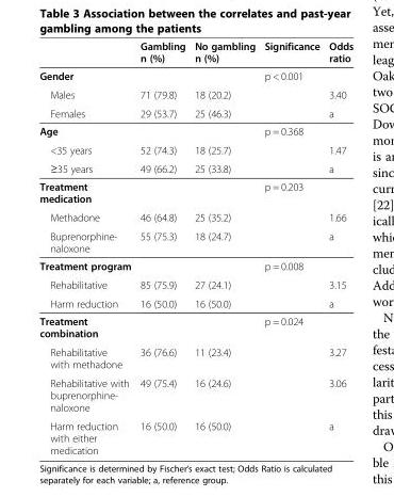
<table><thead><tr><td></td><td>Gambling n (%)</td><td>No gambling n (%)</td><td>Significance</td><td>Odds ratio</td></tr></thead><tbody><tr><td>Gender</td><td></td><td></td><td>p &lt; 0.001</td><td></td></tr><tr><td>Males</td><td>71 (79.8)</td><td>18 (20.2)</td><td></td><td>3.40</td></tr><tr><td>Females</td><td>29 (53.7)</td><td>25 (46.3)</td><td></td><td>a</td></tr><tr><td>Age</td><td></td><td></td><td>p = 0.368</td><td></td></tr><tr><td>&lt;35 years</td><td>52 (74.3)</td><td>18 (25.7)</td><td></td><td>1.47</td></tr><tr><td>≥35 years</td><td>49 (66.2)</td><td>25 (33.8)</td><td></td><td>a</td></tr><tr><td>Treatment medication</td><td></td><td></td><td>p = 0.203</td><td></td></tr><tr><td>Methadone</td><td>46 (64.8)</td><td>25 (35.2)</td><td></td><td>1.66</td></tr><tr><td>Buprenorphine- naloxone</td><td>55 (75.3)</td><td>18 (24.7)</td><td></td><td>a</td></tr><tr><td>Treatment program</td><td></td><td></td><td>p = 0.008</td><td></td></tr><tr><td>Rehabilitative</td><td>85 (75.9)</td><td>27 (24.1)</td><td></td><td>3.15</td></tr><tr><td>Harm reduction</td><td>16 (50.0)</td><td>16 (50.0)</td><td></td><td>a</td></tr><tr><td>Treatment combination</td><td></td><td></td><td>p = 0.024</td><td></td></tr><tr><td>Rehabilitative with methadone</td><td>36 (76.6)</td><td>11 (23.4)</td><td></td><td>3.27</td></tr><tr><td>Rehabilitative with buprenorphine- naloxone</td><td>49 (75.4)</td><td>16 (24.6)</td><td></td><td>3.06</td></tr><tr><td>Harm reduction with either medication</td><td>16 (50.0)</td><td>16 (50.0)</td><td></td><td>a</td></tr></tbody></table>